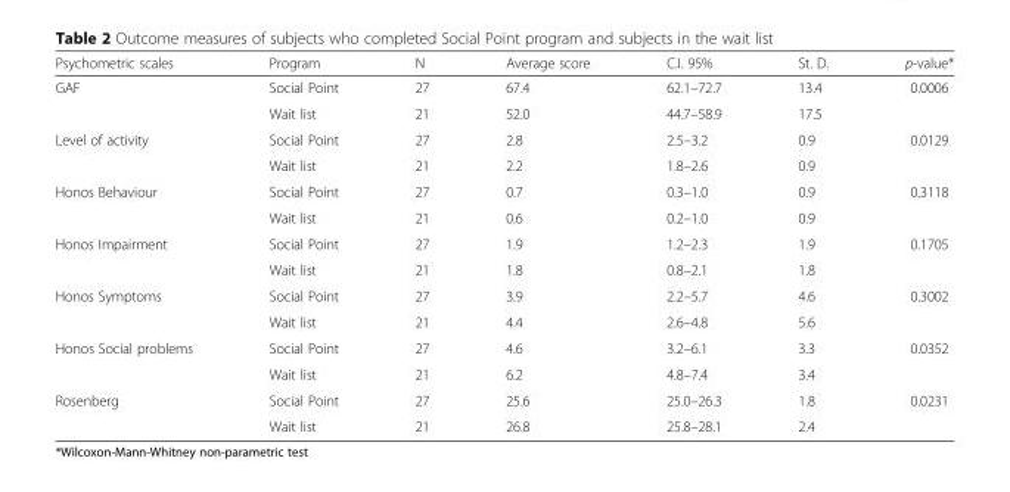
<table><thead><tr><td>Psychometric scales</td><td>Program</td><td>N</td><td>Average score</td><td>C.I. 95%</td><td>St. D.</td><td>p-value*</td></tr></thead><tbody><tr><td rowspan="2">GAF</td><td>Social Point</td><td>27</td><td>67.4</td><td>62.1–72.7</td><td>13.4</td><td rowspan="2">0.0006</td></tr><tr><td>Wait list</td><td>21</td><td>52.0</td><td>44.7–58.9</td><td>17.5</td></tr><tr><td rowspan="2">Level of activity</td><td>Social Point</td><td>27</td><td>2.8</td><td>2.5–3.2</td><td>0.9</td><td rowspan="2">0.0129</td></tr><tr><td>Wait list</td><td>21</td><td>2.2</td><td>1.8–2.6</td><td>0.9</td></tr><tr><td rowspan="2">Honos Behaviour</td><td>Social Point</td><td>27</td><td>0.7</td><td>0.3–1.0</td><td>0.9</td><td rowspan="2">0.3118</td></tr><tr><td>Wait list</td><td>21</td><td>0.6</td><td>0.2–1.0</td><td>0.9</td></tr><tr><td rowspan="2">Honos Impairment</td><td>Social Point</td><td>27</td><td>1.9</td><td>1.2–2.3</td><td>1.9</td><td rowspan="2">0.1705</td></tr><tr><td>Wait list</td><td>21</td><td>1.8</td><td>0.8–2.1</td><td>1.8</td></tr><tr><td rowspan="2">Honos Symptoms</td><td>Social Point</td><td>27</td><td>3.9</td><td>2.2–5.7</td><td>4.6</td><td rowspan="2">0.3002</td></tr><tr><td>Wait list</td><td>21</td><td>4.4</td><td>2.6–4.8</td><td>5.6</td></tr><tr><td rowspan="2">Honos Social problems</td><td>Social Point</td><td>27</td><td>4.6</td><td>3.2–6.1</td><td>3.3</td><td rowspan="2">0.0352</td></tr><tr><td>Wait list</td><td>21</td><td>6.2</td><td>4.8–7.4</td><td>3.4</td></tr><tr><td rowspan="2">Rosenberg</td><td>Social Point</td><td>27</td><td>25.6</td><td>25.0–26.3</td><td>1.8</td><td rowspan="2">0.0231</td></tr><tr><td>Wait list</td><td>21</td><td>26.8</td><td>25.8–28.1</td><td>2.4</td></tr></tbody></table>